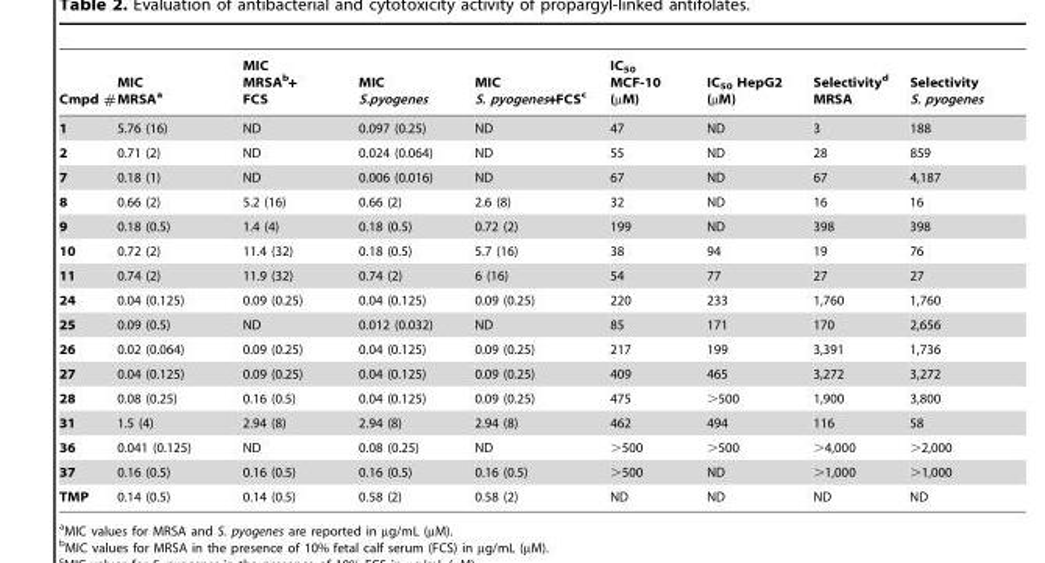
<table><thead><tr><td>Cmpd #</td><td>MIC MRSA<sup>a</sup></td><td>MIC MRSA<sup>b</sup>+ FCS</td><td>MIC S.pyogenes</td><td>MIC S. pyogenes+FCS<sup>c</sup></td><td>IC<sub>50</sub> MCF-10 (µM)</td><td>IC<sub>50</sub> HepG2 (µM)</td><td>Selectivity<sup>d</sup> MRSA</td><td>Selectivity S. pyogenes</td></tr></thead><tbody><tr><td>1</td><td>5.76 (16)</td><td>ND</td><td>0.097 (0.25)</td><td>ND</td><td>47</td><td>ND</td><td>3</td><td>188</td></tr><tr><td>2</td><td>0.71 (2)</td><td>ND</td><td>0.024 (0.064)</td><td>ND</td><td>55</td><td>ND</td><td>28</td><td>859</td></tr><tr><td>7</td><td>0.18 (1)</td><td>ND</td><td>0.006 (0.016)</td><td>ND</td><td>67</td><td>ND</td><td>67</td><td>4,187</td></tr><tr><td>8</td><td>0.66 (2)</td><td>5.2 (16)</td><td>0.66 (2)</td><td>2.6 (8)</td><td>32</td><td>ND</td><td>16</td><td>16</td></tr><tr><td>9</td><td>0.18 (0.5)</td><td>1.4 (4)</td><td>0.18 (0.5)</td><td>0.72 (2)</td><td>199</td><td>ND</td><td>398</td><td>398</td></tr><tr><td>10</td><td>0.72 (2)</td><td>11.4 (32)</td><td>0.18 (0.5)</td><td>5.7 (16)</td><td>38</td><td>94</td><td>19</td><td>76</td></tr><tr><td>11</td><td>0.74 (2)</td><td>11.9 (32)</td><td>0.74 (2)</td><td>6 (16)</td><td>54</td><td>77</td><td>27</td><td>27</td></tr><tr><td>24</td><td>0.04 (0.125)</td><td>0.09 (0.25)</td><td>0.04 (0.125)</td><td>0.09 (0.25)</td><td>220</td><td>233</td><td>1,760</td><td>1,760</td></tr><tr><td>25</td><td>0.09 (0.5)</td><td>ND</td><td>0.012 (0.032)</td><td>ND</td><td>85</td><td>171</td><td>170</td><td>2,656</td></tr><tr><td>26</td><td>0.02 (0.064)</td><td>0.09 (0.25)</td><td>0.04 (0.125)</td><td>0.09 (0.25)</td><td>217</td><td>199</td><td>3,391</td><td>1,736</td></tr><tr><td>27</td><td>0.04 (0.125)</td><td>0.09 (0.25)</td><td>0.04 (0.125)</td><td>0.09 (0.25)</td><td>409</td><td>465</td><td>3,272</td><td>3,272</td></tr><tr><td>28</td><td>0.08 (0.25)</td><td>0.16 (0.5)</td><td>0.04 (0.125)</td><td>0.09 (0.25)</td><td>475</td><td>&gt;500</td><td>1,900</td><td>3,800</td></tr><tr><td>31</td><td>1.5 (4)</td><td>2.94 (8)</td><td>2.94 (8)</td><td>2.94 (8)</td><td>462</td><td>494</td><td>116</td><td>58</td></tr><tr><td>36</td><td>0.041 (0.125)</td><td>ND</td><td>0.08 (0.25)</td><td>ND</td><td>&gt;500</td><td>&gt;500</td><td>&gt;4,000</td><td>&gt;2,000</td></tr><tr><td>37</td><td>0.16 (0.5)</td><td>0.16 (0.5)</td><td>0.16 (0.5)</td><td>0.16 (0.5)</td><td>&gt;500</td><td>ND</td><td>&gt;1,000</td><td>&gt;1,000</td></tr><tr><td>TMP</td><td>0.14 (0.5)</td><td>0.14 (0.5)</td><td>0.58 (2)</td><td>0.58 (2)</td><td>ND</td><td>ND</td><td>ND</td><td>ND</td></tr></tbody></table>